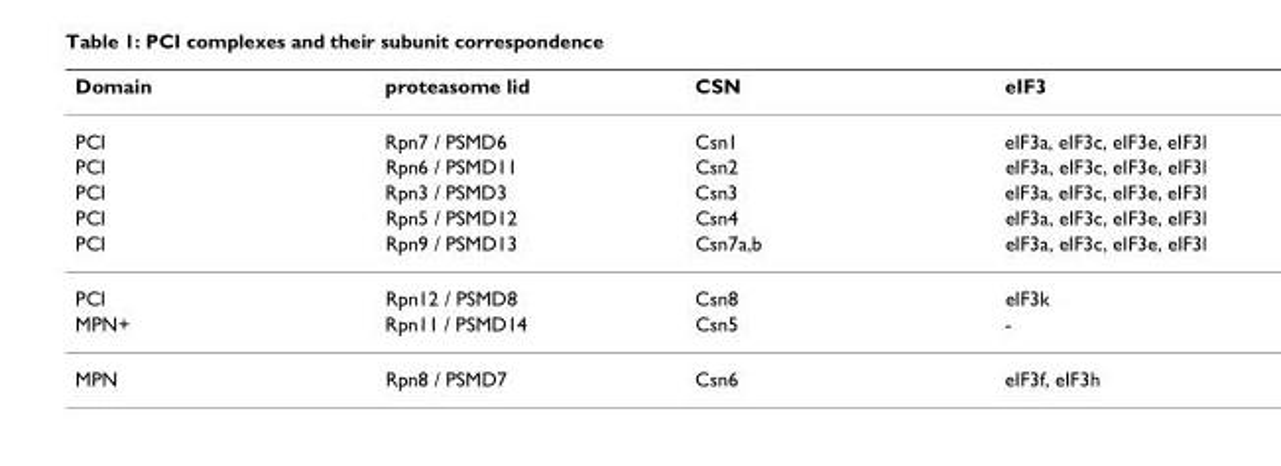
<table><thead><tr><td>Domain</td><td>proteasome lid</td><td>CSN</td><td>eIF3</td></tr></thead><tbody><tr><td>PCI</td><td>Rpn7 / PSMD6</td><td>Csn1</td><td>eIF3a, eIF3c, eIF3e, eIF3l</td></tr><tr><td>PCI</td><td>Rpn6 / PSMD11</td><td>Csn2</td><td>eIF3a, eIF3c, eIF3e, eIF3l</td></tr><tr><td>PCI</td><td>Rpn3 / PSMD3</td><td>Csn3</td><td>eIF3a, eIF3c, eIF3e, eIF3l</td></tr><tr><td>PCI</td><td>Rpn5 / PSMD12</td><td>Csn4</td><td>eIF3a, eIF3c, eIF3e, eIF3l</td></tr><tr><td>PCI</td><td>Rpn9 / PSMD13</td><td>Csn7a,b</td><td>eIF3a, eIF3c, eIF3e, eIF3l</td></tr><tr><td>PCI</td><td>Rpn12 / PSMD8</td><td>Csn8</td><td>eIF3k</td></tr><tr><td>MPN+</td><td>Rpn11 / PSMD14</td><td>Csn5</td><td>-</td></tr><tr><td>MPN</td><td>Rpn8 / PSMD7</td><td>Csn6</td><td>eIF3f, eIF3h</td></tr></tbody></table>